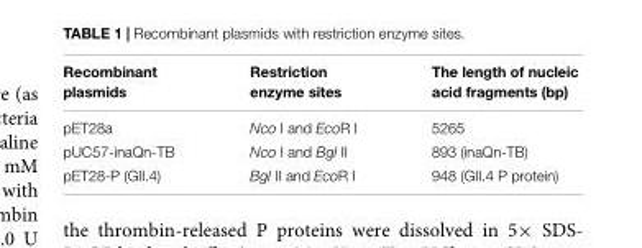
<table><thead><tr><td>Recombinant plasmids</td><td>Restriction enzyme sites</td><td>The length of nucleic acid fragments (bp)</td></tr></thead><tbody><tr><td>pET28a</td><td>Nco I and EcoR I</td><td>5265</td></tr><tr><td>pUC57-inaQn-TB</td><td>Nco I and Bgl II</td><td>893 (inaQn-TB)</td></tr><tr><td>pET28-P (GII.4)</td><td>Bgl II and EcoR I</td><td>948 (GII.4 P protein)</td></tr></tbody></table>